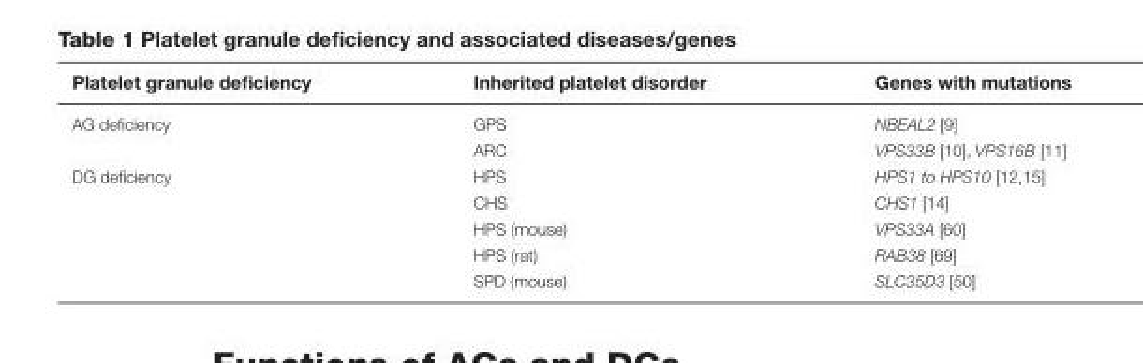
<table><thead><tr><td>Platelet granule deficiency</td><td>Inherited platelet disorder</td><td>Genes with mutations</td></tr></thead><tbody><tr><td rowspan="2">AG deficiency</td><td>GPS</td><td>NBEAL2 [9]</td></tr><tr><td>ARC</td><td>VPS33B [10], VPS16B [11]</td></tr><tr><td rowspan="5">DG deficiency</td><td>HPS</td><td>HPS1 to HPS10 [12,15]</td></tr><tr><td>CHS</td><td>CHS1 [14]</td></tr><tr><td>HPS (mouse)</td><td>VPS33A [60]</td></tr><tr><td>HPS (rat)</td><td>RAB38 [69]</td></tr><tr><td>SPD (mouse)</td><td>SLC35D3 [50]</td></tr></tbody></table>